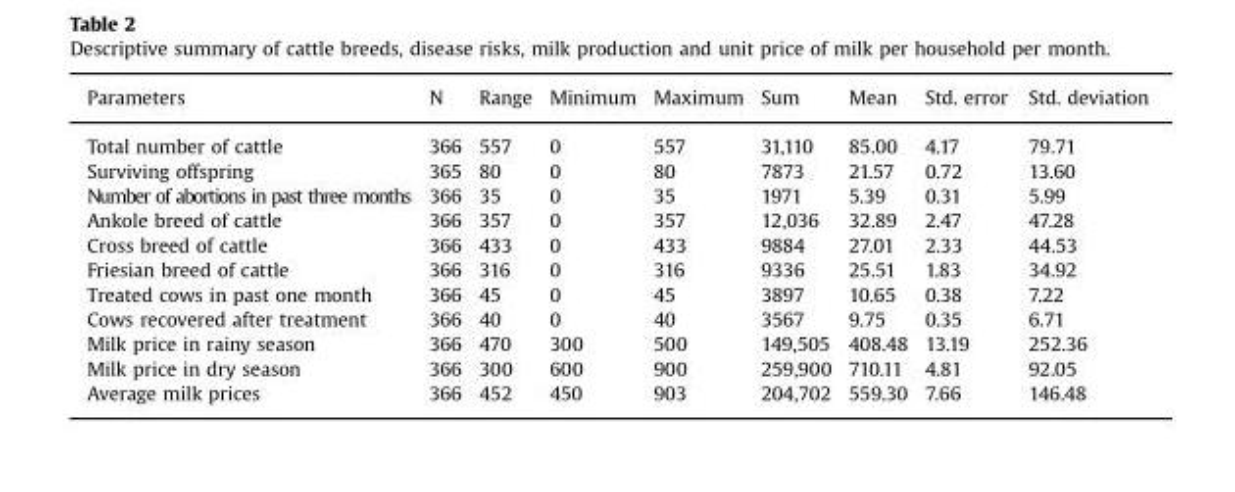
<table><thead><tr><td>Parameters</td><td>N</td><td>Range</td><td>Minimum</td><td>Maximum</td><td>Sum</td><td>Mean</td><td>Std. error</td><td>Std. deviation</td></tr></thead><tbody><tr><td>Total number of cattle</td><td>366</td><td>557</td><td>0</td><td>557</td><td>31,110</td><td>85.00</td><td>4.17</td><td>79.71</td></tr><tr><td>Surviving offspring</td><td>365</td><td>80</td><td>0</td><td>80</td><td>7873</td><td>21.57</td><td>0.72</td><td>13.60</td></tr><tr><td>Number of abortions in past three months</td><td>366</td><td>35</td><td>0</td><td>35</td><td>1971</td><td>5.39</td><td>0.31</td><td>5.99</td></tr><tr><td>Ankole breed of cattle</td><td>366</td><td>357</td><td>0</td><td>357</td><td>12,036</td><td>32.89</td><td>2.47</td><td>47.28</td></tr><tr><td>Cross breed of cattle</td><td>366</td><td>433</td><td>0</td><td>433</td><td>9884</td><td>27.01</td><td>2.33</td><td>44.53</td></tr><tr><td>Friesian breed of cattle</td><td>366</td><td>316</td><td>0</td><td>316</td><td>9336</td><td>25.51</td><td>1.83</td><td>34.92</td></tr><tr><td>Treated cows in past one month</td><td>366</td><td>45</td><td>0</td><td>45</td><td>3897</td><td>10.65</td><td>0.38</td><td>7.22</td></tr><tr><td>Cows recovered after treatment</td><td>366</td><td>40</td><td>0</td><td>40</td><td>3567</td><td>9.75</td><td>0.35</td><td>6.71</td></tr><tr><td>Milk price in rainy season</td><td>366</td><td>470</td><td>300</td><td>500</td><td>149,505</td><td>408.48</td><td>13.19</td><td>252.36</td></tr><tr><td>Milk price in dry season</td><td>366</td><td>300</td><td>600</td><td>900</td><td>259,900</td><td>710.11</td><td>4.81</td><td>92.05</td></tr><tr><td>Average milk prices</td><td>366</td><td>452</td><td>450</td><td>903</td><td>204,702</td><td>559.30</td><td>7.66</td><td>146.48</td></tr></tbody></table>